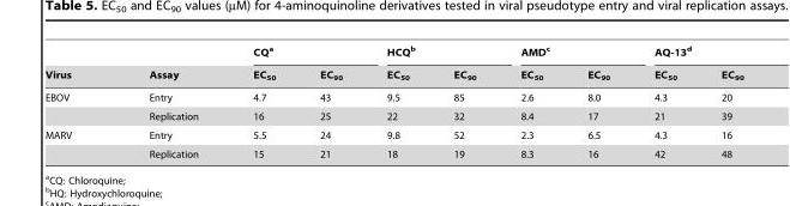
<table><thead><tr><td rowspan="2">Virus</td><td rowspan="2">Assay</td><td colspan="2">CQ<sup>a</sup></td><td colspan="2">HCQ<sup>b</sup></td><td colspan="2">AMD<sup>c</sup></td><td colspan="2">AQ-13<sup>d</sup></td></tr><tr><td>EC<sub>50</sub></td><td>EC<sub>90</sub></td><td>EC<sub>50</sub></td><td>EC<sub>90</sub></td><td>EC<sub>50</sub></td><td>EC<sub>90</sub></td><td>EC<sub>50</sub></td><td>EC<sub>90</sub></td></tr></thead><tbody><tr><td rowspan="2">EBOV</td><td>Entry</td><td>4.7</td><td>43</td><td>9.5</td><td>85</td><td>2.6</td><td>8.0</td><td>4.3</td><td>20</td></tr><tr><td>Replication</td><td>16</td><td>25</td><td>22</td><td>32</td><td>8.4</td><td>17</td><td>21</td><td>39</td></tr><tr><td rowspan="2">MARV</td><td>Entry</td><td>5.5</td><td>24</td><td>9.8</td><td>52</td><td>2.3</td><td>6.5</td><td>4.3</td><td>16</td></tr><tr><td>Replication</td><td>15</td><td>21</td><td>18</td><td>19</td><td>8.3</td><td>16</td><td>42</td><td>48</td></tr></tbody></table>